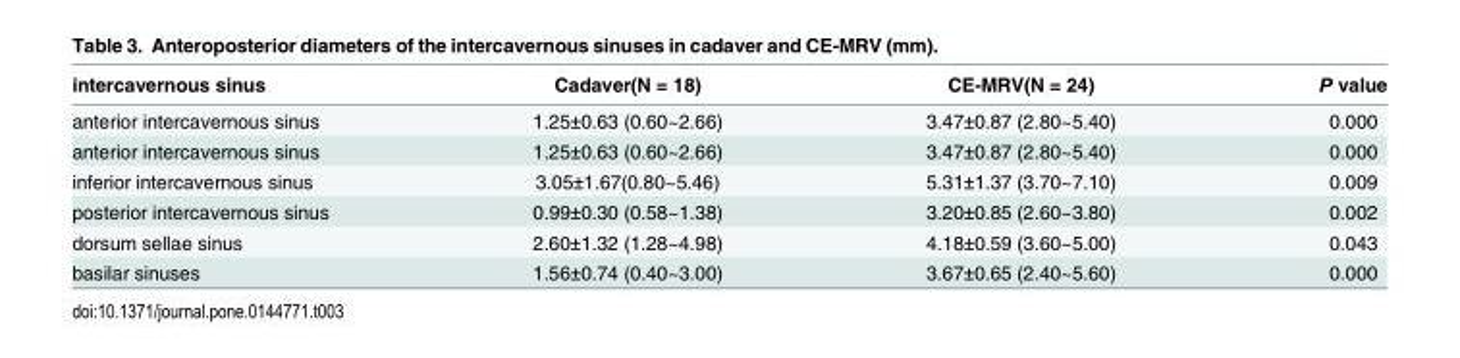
<table><thead><tr><td>intercavernous sinus</td><td>Cadaver(N = 18)</td><td>CE-MRV(N = 24)</td><td>P value</td></tr></thead><tbody><tr><td>anterior intercavernous sinus</td><td>1.25±0.63 (0.60~2.66)</td><td>3.47±0.87 (2.80~5.40)</td><td>0.000</td></tr><tr><td>anterior intercavernous sinus</td><td>1.25±0.63 (0.60~2.66)</td><td>3.47±0.87 (2.80~5.40)</td><td>0.000</td></tr><tr><td>inferior intercavernous sinus</td><td>3.05±1.67(0.80~5.46)</td><td>5.31±1.37 (3.70~7.10)</td><td>0.009</td></tr><tr><td>posterior intercavernous sinus</td><td>0.99±0.30 (0.58~1.38)</td><td>3.20±0.85 (2.60~3.80)</td><td>0.002</td></tr><tr><td>dorsum sellae sinus</td><td>2.60±1.32 (1.28~4.98)</td><td>4.18±0.59 (3.60~5.00)</td><td>0.043</td></tr><tr><td>basilar sinuses</td><td>1.56±0.74 (0.40~3.00)</td><td>3.67±0.65 (2.40~5.60)</td><td>0.000</td></tr></tbody></table>